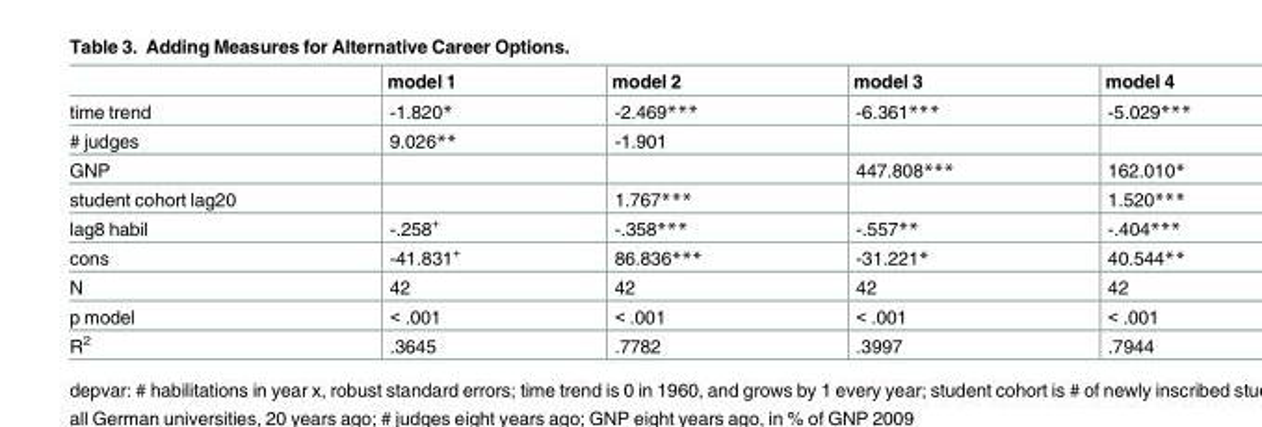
<table><thead><tr><td></td><td>model 1</td><td>model 2</td><td>model 3</td><td>model 4</td></tr></thead><tbody><tr><td>time trend</td><td>-1.820*</td><td>-2.469***</td><td>-6.361***</td><td>-5.029***</td></tr><tr><td># judges</td><td>9.026**</td><td>-1.901</td><td></td><td></td></tr><tr><td>GNP</td><td></td><td></td><td>447.808***</td><td>162.010*</td></tr><tr><td>student cohort lag20</td><td></td><td>1.767***</td><td></td><td>1.520***</td></tr><tr><td>lag8 habil</td><td>-.258<sup>+</sup></td><td>-.358***</td><td>-.557**</td><td>-.404***</td></tr><tr><td>cons</td><td>-41.831<sup>+</sup></td><td>86.836***</td><td>-31.221*</td><td>40.544**</td></tr><tr><td>N</td><td>42</td><td>42</td><td>42</td><td>42</td></tr><tr><td>p model</td><td>&lt; .001</td><td>&lt; .001</td><td>&lt; .001</td><td>&lt; .001</td></tr><tr><td>R<sup>2</sup></td><td>.3645</td><td>.7782</td><td>.3997</td><td>.7944</td></tr></tbody></table>